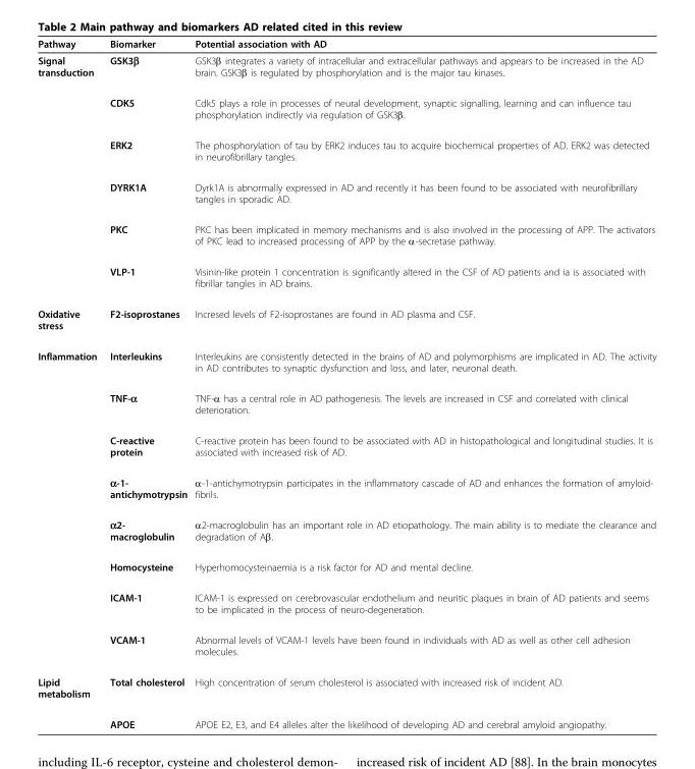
<table><thead><tr><td>Pathway</td><td>Biomarker</td><td>Potential association with AD</td></tr></thead><tbody><tr><td rowspan="6">Signal transduction</td><td>GSK3β</td><td>GSK3β integrates a variety of intracellular and extracellular pathways and appears to be increased in the AD brain. GSK3β is regulated by phosphorylation and is the major tau kinases.</td></tr><tr><td>CDK5</td><td>Cdk5 plays a role in processes of neural development, synaptic signalling, learning and can influence tau phosphorylation indirectly via regulation of GSK3β.</td></tr><tr><td>ERK2</td><td>The phosphorylation of tau by ERK2 induces tau to acquire biochemical properties of AD. ERK2 was detected in neurofibrillary tangles.</td></tr><tr><td>DYRK1A</td><td>Dyrk1A is abnormally expressed in AD and recently it has been found to be associated with neurofibrillary tangles in sporadic AD.</td></tr><tr><td>PKC</td><td>PKC has been implicated in memory mechanisms and is also involved in the processing of APP. The activators of PKC lead to increased processing of APP by the α-secretase pathway.</td></tr><tr><td>VLP-1</td><td>Visinin-like protein 1 concentration is significantly altered in the CSF of AD patients and ia is associated with fibrillar tangles in AD brains.</td></tr><tr><td>Oxidative stress</td><td>F2-isoprostanes</td><td>Incresed levels of F2-isoprostanes are found in AD plasma and CSF.</td></tr><tr><td rowspan="8">Inflammation</td><td>Interleukins</td><td>Interleukins are consistently detected in the brains of AD and polymorphisms are implicated in AD. The activity in AD contributes to synaptic dysfunction and loss, and later, neuronal death.</td></tr><tr><td>TNF-α</td><td>TNF-α has a central role in AD pathogenesis. The levels are increased in CSF and correlated with clinical deterioration.</td></tr><tr><td>C-reactive protein</td><td>C-reactive protein has been found to be associated with AD in histopathological and longitudinal studies. It is associated with increased risk of AD.</td></tr><tr><td>α-1- antichymotrypsin</td><td>α-1-antichymotrypsin participates in the inflammatory cascade of AD and enhances the formation of amyloid- fibrils.</td></tr><tr><td>α2- macroglobulin</td><td>α2-macroglobulin has an important role in AD etiopathology. The main ability is to mediate the clearance and degradation of Aβ.</td></tr><tr><td>Homocysteine</td><td>Hyperhomocysteinaemia is a risk factor for AD and mental decline.</td></tr><tr><td>ICAM-1</td><td>ICAM-1 is expressed on cerebrovascular endothelium and neuritic plaques in brain of AD patients and seems to be implicated in the process of neuro-degeneration.</td></tr><tr><td>VCAM-1</td><td>Abnormal levels of VCAM-1 levels have been found in individuals with AD as well as other cell adhesion molecules.</td></tr><tr><td rowspan="2">Lipid metabolism</td><td>Total cholesterol</td><td>High concentration of serum cholesterol is associated with increased risk of incident AD.</td></tr><tr><td>APOE</td><td>APOE E2, E3, and E4 alleles alter the likelihood of developing AD and cerebral amyloid angiopathy.</td></tr></tbody></table>